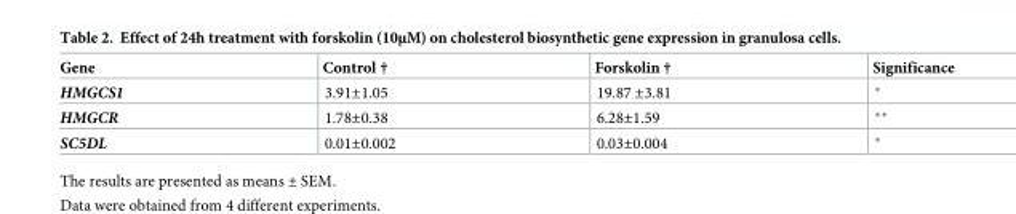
<table><thead><tr><td>Gene</td><td>Control †</td><td>Forskolin †</td><td>Significance</td></tr></thead><tbody><tr><td>HMGCS1</td><td>3.91±1.05</td><td>19.87 ±3.81</td><td>*</td></tr><tr><td>HMGCR</td><td>1.78±0.38</td><td>6.28±1.59</td><td>**</td></tr><tr><td>SC5DL</td><td>0.01±0.002</td><td>0.03±0.004</td><td>*</td></tr></tbody></table>